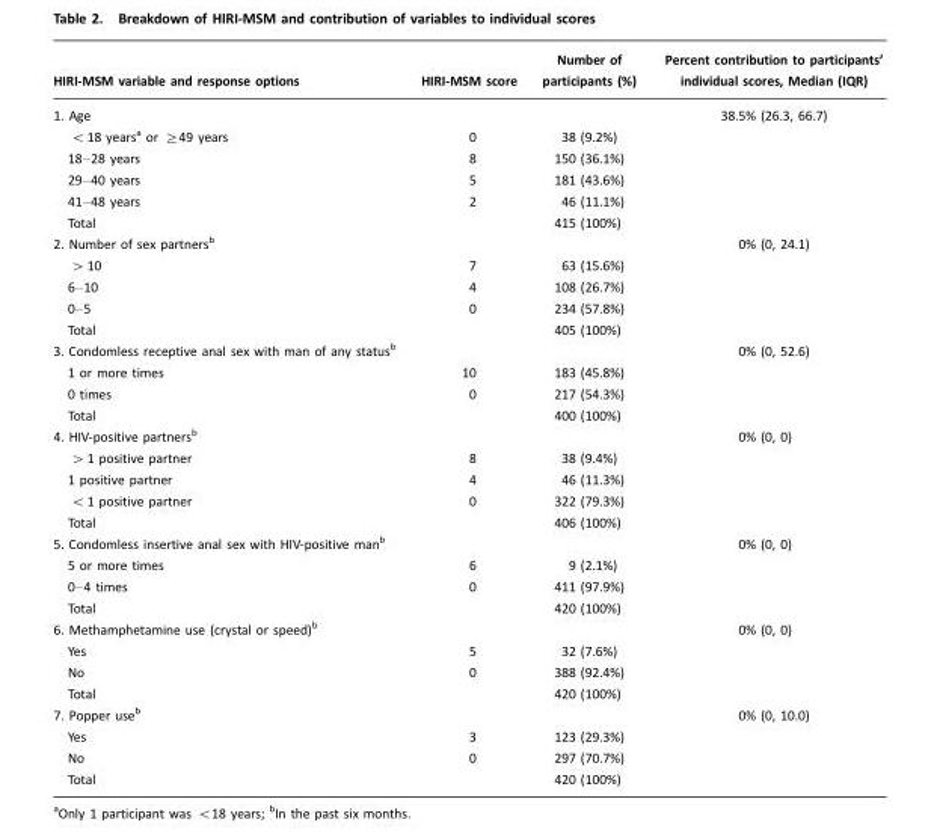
<table><thead><tr><td>HIRI-MSM variable and response options</td><td>HIRI-MSM score</td><td>Number of participants (%)</td><td>Percent contribution to participants’ individual scores, Median (IQR)</td></tr></thead><tbody><tr><td>1. Age</td><td></td><td></td><td>38.5% (26.3, 66.7)</td></tr><tr><td>&lt;18 years<sup>a</sup> or ≥49 years</td><td>0</td><td>38 (9.2%)</td><td></td></tr><tr><td>18–28 years</td><td>8</td><td>150 (36.1%)</td><td></td></tr><tr><td>29–40 years</td><td>5</td><td>181 (43.6%)</td><td></td></tr><tr><td>41–48 years</td><td>2</td><td>46 (11.1%)</td><td></td></tr><tr><td>Total</td><td></td><td>415 (100%)</td><td></td></tr><tr><td>2. Number of sex partners<sup>b</sup></td><td></td><td></td><td>0% (0, 24.1)</td></tr><tr><td>&gt;10</td><td>7</td><td>63 (15.6%)</td><td></td></tr><tr><td>6–10</td><td>4</td><td>108 (26.7%)</td><td></td></tr><tr><td>0–5</td><td>0</td><td>234 (57.8%)</td><td></td></tr><tr><td>Total</td><td></td><td>405 (100%)</td><td></td></tr><tr><td>3. Condomless receptive anal sex with man of any status<sup>b</sup></td><td></td><td></td><td>0% (0, 52.6)</td></tr><tr><td>1 or more times</td><td>10</td><td>183 (45.8%)</td><td></td></tr><tr><td>0 times</td><td>0</td><td>217 (54.3%)</td><td></td></tr><tr><td>Total</td><td></td><td>400 (100%)</td><td></td></tr><tr><td>4. HIV-positive partners<sup>b</sup></td><td></td><td></td><td>0% (0, 0)</td></tr><tr><td>&gt;1 positive partner</td><td>8</td><td>38 (9.4%)</td><td></td></tr><tr><td>1 positive partner</td><td>4</td><td>46 (11.3%)</td><td></td></tr><tr><td>&lt;1 positive partner</td><td>0</td><td>322 (79.3%)</td><td></td></tr><tr><td>Total</td><td></td><td>406 (100%)</td><td></td></tr><tr><td>5. Condomless insertive anal sex with HIV-positive man<sup>b</sup></td><td></td><td></td><td>0% (0, 0)</td></tr><tr><td>5 or more times</td><td>6</td><td>9 (2.1%)</td><td></td></tr><tr><td>0–4 times</td><td>0</td><td>411 (97.9%)</td><td></td></tr><tr><td>Total</td><td></td><td>420 (100%)</td><td></td></tr><tr><td>6. Methamphetamine use (crystal or speed)<sup>b</sup></td><td></td><td></td><td>0% (0, 0)</td></tr><tr><td>Yes</td><td>5</td><td>32 (7.6%)</td><td></td></tr><tr><td>No</td><td>0</td><td>388 (92.4%)</td><td></td></tr><tr><td>Total</td><td></td><td>420 (100%)</td><td></td></tr><tr><td>7. Popper use<sup>b</sup></td><td></td><td></td><td>0% (0, 10.0)</td></tr><tr><td>Yes</td><td>3</td><td>123 (29.3%)</td><td></td></tr><tr><td>No</td><td>0</td><td>297 (70.7%)</td><td></td></tr><tr><td>Total</td><td></td><td>420 (100%)</td><td></td></tr></tbody></table>